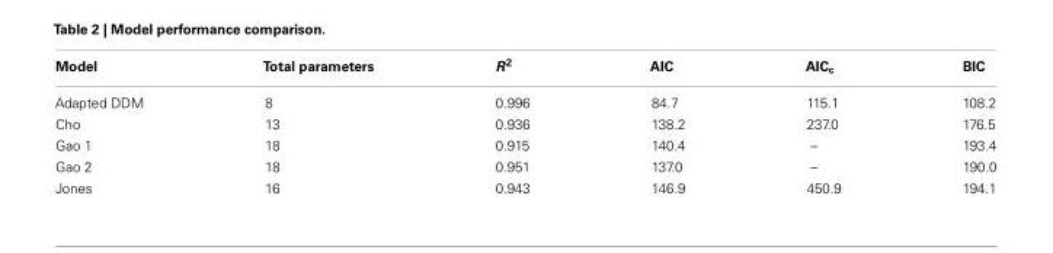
<table><thead><tr><td>Model</td><td>Total parameters</td><td>R<sup>2</sup></td><td>AIC</td><td>AIC<sub>c</sub></td><td>BIC</td></tr></thead><tbody><tr><td>Adapted DDM</td><td>8</td><td>0.996</td><td>84.7</td><td>115.1</td><td>108.2</td></tr><tr><td>Cho</td><td>13</td><td>0.936</td><td>138.2</td><td>237.0</td><td>176.5</td></tr><tr><td>Gao 1</td><td>18</td><td>0.915</td><td>140.4</td><td>–</td><td>193.4</td></tr><tr><td>Gao 2</td><td>18</td><td>0.951</td><td>137.0</td><td>–</td><td>190.0</td></tr><tr><td>Jones</td><td>16</td><td>0.943</td><td>146.9</td><td>450.9</td><td>194.1</td></tr></tbody></table>